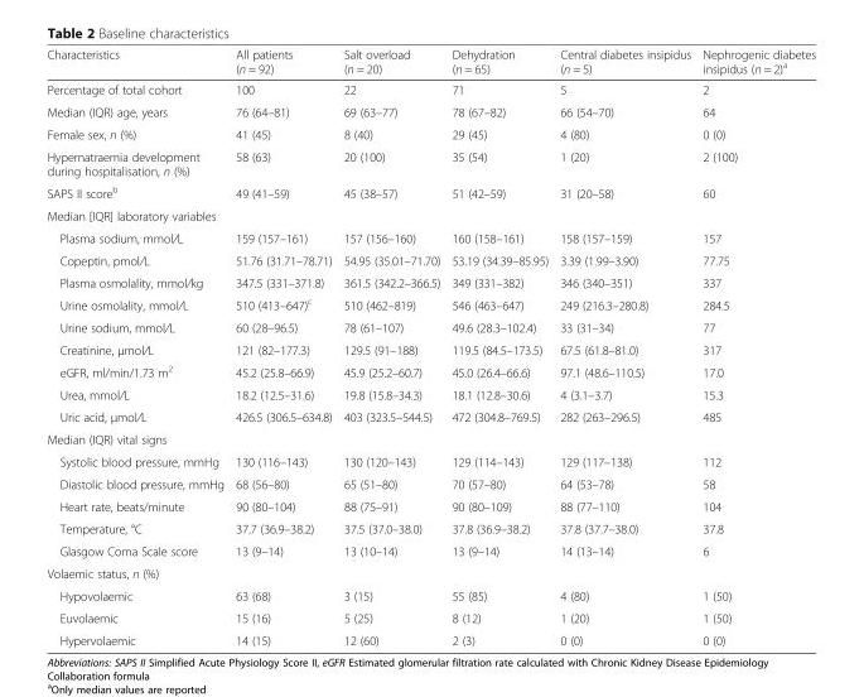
<table><thead><tr><td>Characteristics</td><td>All patients (n = 92)</td><td>Salt overload (n = 20)</td><td>Dehydration (n = 65)</td><td>Central diabetes insipidus (n = 5)</td><td>Nephrogenic diabetes insipidus (n = 2)<sup>a</sup></td></tr></thead><tbody><tr><td>Percentage of total cohort</td><td>100</td><td>22</td><td>71</td><td>5</td><td>2</td></tr><tr><td>Median (IQR) age, years</td><td>76 (64–81)</td><td>69 (63–77)</td><td>78 (67–82)</td><td>66 (54–70)</td><td>64</td></tr><tr><td>Female sex, n (%)</td><td>41 (45)</td><td>8 (40)</td><td>29 (45)</td><td>4 (80)</td><td>0 (0)</td></tr><tr><td>Hypernatraemia development during hospitalisation, n (%)</td><td>58 (63)</td><td>20 (100)</td><td>35 (54)</td><td>1 (20)</td><td>2 (100)</td></tr><tr><td>SAPS II score<sup>b</sup></td><td>49 (41–59)</td><td>45 (38–57)</td><td>51 (42–59)</td><td>31 (20–58)</td><td>60</td></tr><tr><td colspan="6">Median [IQR] laboratory variables</td></tr><tr><td>Plasma sodium, mmol/L</td><td>159 (157–161)</td><td>157 (156–160)</td><td>160 (158–161)</td><td>158 (157–159)</td><td>157</td></tr><tr><td>Copeptin, pmol/L</td><td>51.76 (31.71–78.71)</td><td>54.95 (35.01–71.70)</td><td>53.19 (34.39–85.95)</td><td>3.39 (1.99–3.90)</td><td>77.75</td></tr><tr><td>Plasma osmolality, mmol/kg</td><td>347.5 (331–371.8)</td><td>361.5 (342.2–366.5)</td><td>349 (331–382)</td><td>346 (340–351)</td><td>337</td></tr><tr><td>Urine osmolality, mmol/L</td><td>510 (413–647)<sup>c</sup></td><td>510 (462–819)</td><td>546 (463–647)</td><td>249 (216.3–280.8)</td><td>284.5</td></tr><tr><td>Urine sodium, mmol/L</td><td>60 (28–96.5)</td><td>78 (61–107)</td><td>49.6 (28.3–102.4)</td><td>33 (31–34)</td><td>77</td></tr><tr><td>Creatinine, μmol/L</td><td>121 (82–177.3)</td><td>129.5 (91–188)</td><td>119.5 (84.5–173.5)</td><td>67.5 (61.8–81.0)</td><td>317</td></tr><tr><td>eGFR, ml/min/1.73 m<sup>2</sup></td><td>45.2 (25.8–66.9)</td><td>45.9 (25.2–60.7)</td><td>45.0 (26.4–66.6)</td><td>97.1 (48.6–110.5)</td><td>17.0</td></tr><tr><td>Urea, mmol/L</td><td>18.2 (12.5–31.6)</td><td>19.8 (15.8–34.3)</td><td>18.1 (12.8–30.6)</td><td>4 (3.1–3.7)</td><td>15.3</td></tr><tr><td>Uric acid, μmol/L</td><td>426.5 (306.5–634.8)</td><td>403 (323.5–544.5)</td><td>472 (304.8–769.5)</td><td>282 (263–296.5)</td><td>485</td></tr><tr><td colspan="6">Median (IQR) vital signs</td></tr><tr><td>Systolic blood pressure, mmHg</td><td>130 (116–143)</td><td>130 (120–143)</td><td>129 (114–143)</td><td>129 (117–138)</td><td>112</td></tr><tr><td>Diastolic blood pressure, mmHg</td><td>68 (56–80)</td><td>65 (51–80)</td><td>70 (57–80)</td><td>64 (53–78)</td><td>58</td></tr><tr><td>Heart rate, beats/minute</td><td>90 (80–104)</td><td>88 (75–91)</td><td>90 (80–109)</td><td>88 (77–110)</td><td>104</td></tr><tr><td>Temperature, °C</td><td>37.7 (36.9–38.2)</td><td>37.5 (37.0–38.0)</td><td>37.8 (36.9–38.2)</td><td>37.8 (37.7–38.0)</td><td>37.8</td></tr><tr><td>Glasgow Coma Scale score</td><td>13 (9–14)</td><td>13 (10–14)</td><td>13 (9–14)</td><td>14 (13–14)</td><td>6</td></tr><tr><td colspan="6">Volaemic status, n (%)</td></tr><tr><td>Hypovolaemic</td><td>63 (68)</td><td>3 (15)</td><td>55 (85)</td><td>4 (80)</td><td>1 (50)</td></tr><tr><td>Euvolaemic</td><td>15 (16)</td><td>5 (25)</td><td>8 (12)</td><td>1 (20)</td><td>1 (50)</td></tr><tr><td>Hypervolaemic</td><td>14 (15)</td><td>12 (60)</td><td>2 (3)</td><td>0 (0)</td><td>0 (0)</td></tr></tbody></table>